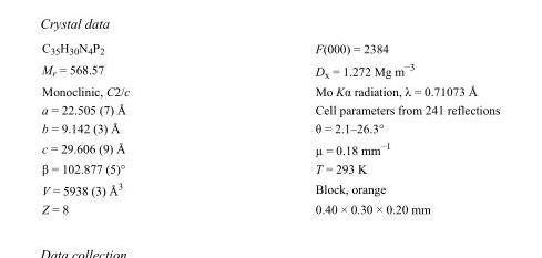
<table><tbody><tr><td>C<sub>35</sub>H<sub>30</sub>N<sub>4</sub>P<sub>2</sub></td><td>F(000) = 2384</td></tr><tr><td>M<sub>r</sub> = 568.57</td><td>D<sub>x</sub> = 1.272 Mg m<sup>−3</sup></td></tr><tr><td>Monoclinic, C2/c</td><td>Mo Kα radiation, λ = 0.71073 Å</td></tr><tr><td>a = 22.505 (7) Å</td><td>Cell parameters from 241 reflections</td></tr><tr><td>b = 9.142 (3) Å</td><td>θ = 2.1–26.3°</td></tr><tr><td>c = 29.606 (9) Å</td><td>µ = 0.18 mm<sup>−1</sup></td></tr><tr><td>β = 102.877 (5)°</td><td>T = 293 K</td></tr><tr><td>V = 5938 (3) Å<sup>3</sup></td><td>Block, orange</td></tr><tr><td>Z = 8</td><td>0.40 × 0.30 × 0.20 mm</td></tr></tbody></table>